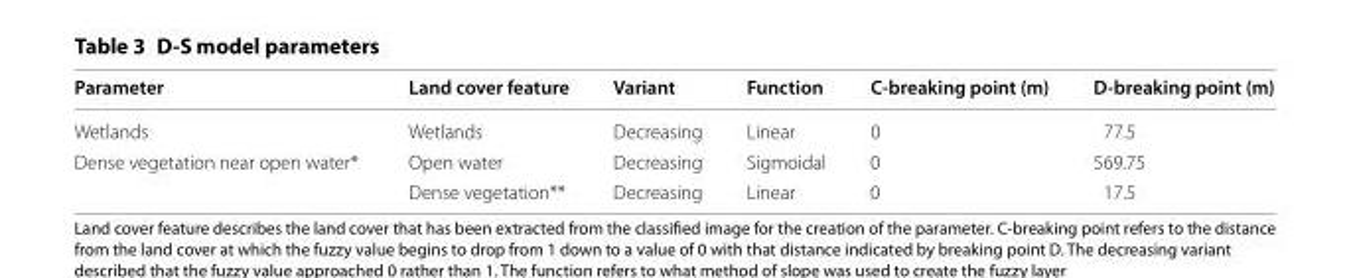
<table><thead><tr><td>Parameter</td><td>Land cover feature</td><td>Variant</td><td>Function</td><td>C‑breaking point (m)</td><td>D‑breaking point (m)</td></tr></thead><tbody><tr><td>Wetlands</td><td>Wetlands</td><td>Decreasing</td><td>Linear</td><td>0</td><td>77.5</td></tr><tr><td rowspan="2">Dense vegetation near open water*</td><td>Open water</td><td>Decreasing</td><td>Sigmoidal</td><td>0</td><td>569.75</td></tr><tr><td>Dense vegetation**</td><td>Decreasing</td><td>Linear</td><td>0</td><td>17.5</td></tr></tbody></table>